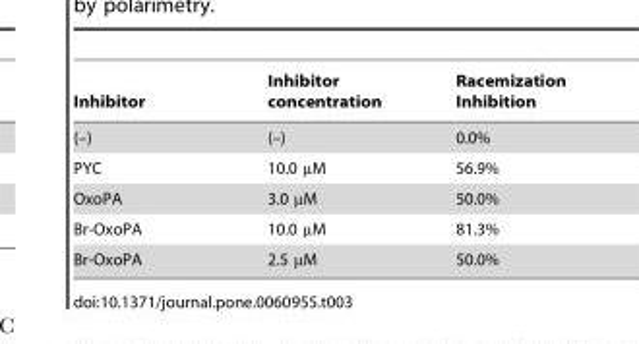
<table><thead><tr><td>Inhibitor</td><td>Inhibitor concentration</td><td>Racemization Inhibition</td></tr></thead><tbody><tr><td>(–)</td><td>(–)</td><td>0.0%</td></tr><tr><td>PYC</td><td>10.0 µM</td><td>56.9%</td></tr><tr><td>OxoPA</td><td>3.0 µM</td><td>50.0%</td></tr><tr><td>Br-OxoPA</td><td>10.0 µM</td><td>81.3%</td></tr><tr><td>Br-OxoPA</td><td>2.5 µM</td><td>50.0%</td></tr></tbody></table>